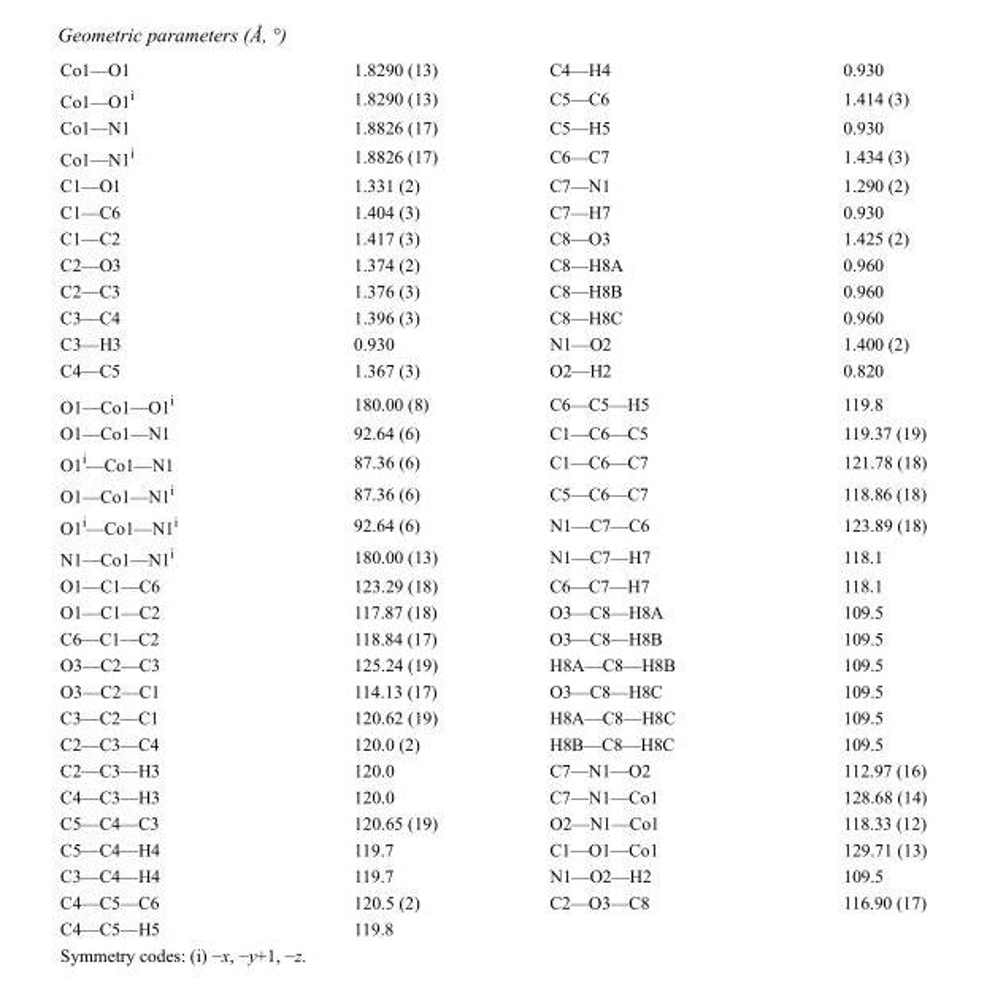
<table><tbody><tr><td>Co1—O1</td><td>1.8290 (13)</td><td>C4—H4</td><td>0.930</td></tr><tr><td>Co1—O1<sup>i</sup></td><td>1.8290 (13)</td><td>C5—C6</td><td>1.414 (3)</td></tr><tr><td>Co1—N1</td><td>1.8826 (17)</td><td>C5—H5</td><td>0.930</td></tr><tr><td>Co1—N1<sup>i</sup></td><td>1.8826 (17)</td><td>C6—C7</td><td>1.434 (3)</td></tr><tr><td>C1—O1</td><td>1.331 (2)</td><td>C7—N1</td><td>1.290 (2)</td></tr><tr><td>C1—C6</td><td>1.404 (3)</td><td>C7—H7</td><td>0.930</td></tr><tr><td>C1—C2</td><td>1.417 (3)</td><td>C8—O3</td><td>1.425 (2)</td></tr><tr><td>C2—O3</td><td>1.374 (2)</td><td>C8—H8A</td><td>0.960</td></tr><tr><td>C2—C3</td><td>1.376 (3)</td><td>C8—H8B</td><td>0.960</td></tr><tr><td>C3—C4</td><td>1.396 (3)</td><td>C8—H8C</td><td>0.960</td></tr><tr><td>C3—H3</td><td>0.930</td><td>N1—O2</td><td>1.400 (2)</td></tr><tr><td>C4—C5</td><td>1.367 (3)</td><td>O2—H2</td><td>0.820</td></tr><tr><td>O1—Co1—O1<sup>i</sup></td><td>180.00 (8)</td><td>C6—C5—H5</td><td>119.8</td></tr><tr><td>O1—Co1—N1</td><td>92.64 (6)</td><td>C1—C6—C5</td><td>119.37 (19)</td></tr><tr><td>O1<sup>i</sup>—Co1—N1</td><td>87.36 (6)</td><td>C1—C6—C7</td><td>121.78 (18)</td></tr><tr><td>O1—Co1—N1<sup>i</sup></td><td>87.36 (6)</td><td>C5—C6—C7</td><td>118.86 (18)</td></tr><tr><td>O1<sup>i</sup>—Co1—N1<sup>i</sup></td><td>92.64 (6)</td><td>N1—C7—C6</td><td>123.89 (18)</td></tr><tr><td>N1—Co1—N1<sup>i</sup></td><td>180.00 (13)</td><td>N1—C7—H7</td><td>118.1</td></tr><tr><td>O1—C1—C6</td><td>123.29 (18)</td><td>C6—C7—H7</td><td>118.1</td></tr><tr><td>O1—C1—C2</td><td>117.87 (18)</td><td>O3—C8—H8A</td><td>109.5</td></tr><tr><td>C6—C1—C2</td><td>118.84 (17)</td><td>O3—C8—H8B</td><td>109.5</td></tr><tr><td>O3—C2—C3</td><td>125.24 (19)</td><td>H8A—C8—H8B</td><td>109.5</td></tr><tr><td>O3—C2—C1</td><td>114.13 (17)</td><td>O3—C8—H8C</td><td>109.5</td></tr><tr><td>C3—C2—C1</td><td>120.62 (19)</td><td>H8A—C8—H8C</td><td>109.5</td></tr><tr><td>C2—C3—C4</td><td>120.0 (2)</td><td>H8B—C8—H8C</td><td>109.5</td></tr><tr><td>C2—C3—H3</td><td>120.0</td><td>C7—N1—O2</td><td>112.97 (16)</td></tr><tr><td>C4—C3—H3</td><td>120.0</td><td>C7—N1—Co1</td><td>128.68 (14)</td></tr><tr><td>C5—C4—C3</td><td>120.65 (19)</td><td>O2—N1—Co1</td><td>118.33 (12)</td></tr><tr><td>C5—C4—H4</td><td>119.7</td><td>C1—O1—Co1</td><td>129.71 (13)</td></tr><tr><td>C3—C4—H4</td><td>119.7</td><td>N1—O2—H2</td><td>109.5</td></tr><tr><td>C4—C5—C6</td><td>120.5 (2)</td><td>C2—O3—C8</td><td>116.90 (17)</td></tr><tr><td>C4—C5—H5</td><td>119.8</td><td></td><td></td></tr></tbody></table>